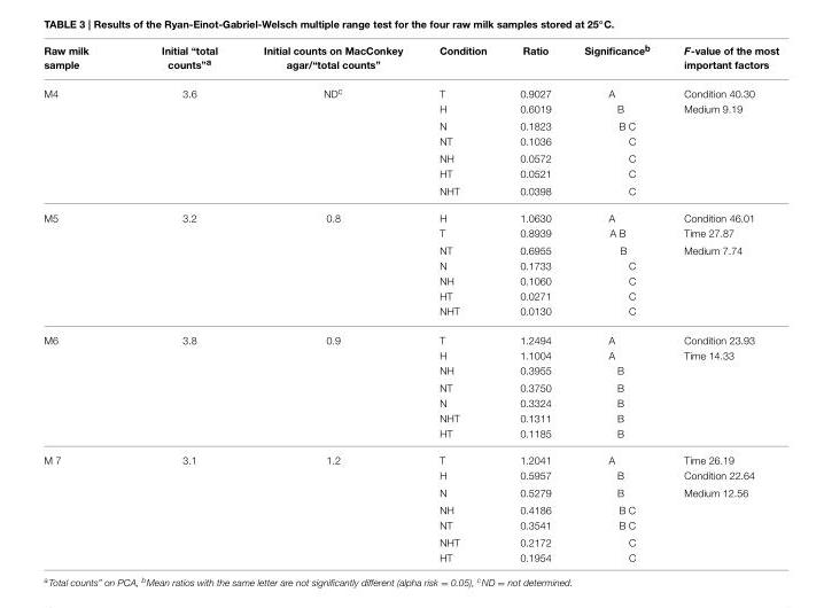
<table><thead><tr><td>Raw milk sample</td><td>Initial “total counts”<sup>a</sup></td><td>Initial counts on MacConkey agar/“total counts”</td><td>Condition</td><td>Ratio</td><td>Significance<sup>b</sup></td><td>F-value of the most important factors</td></tr></thead><tbody><tr><td rowspan="7">M4</td><td>3.6</td><td>ND<sup>c</sup></td><td>T</td><td>0.9027</td><td>A</td><td>Condition 40.30</td></tr><tr><td></td><td></td><td>H</td><td>0.6019</td><td>B</td><td>Medium 9.19</td></tr><tr><td></td><td></td><td>N</td><td>0.1823</td><td>B C</td><td></td></tr><tr><td></td><td></td><td>NT</td><td>0.1036</td><td>C</td><td></td></tr><tr><td></td><td></td><td>NH</td><td>0.0572</td><td>C</td><td></td></tr><tr><td></td><td></td><td>HT</td><td>0.0521</td><td>C</td><td></td></tr><tr><td></td><td></td><td>NHT</td><td>0.0398</td><td>C</td><td></td></tr><tr><td rowspan="7">M5</td><td>3.2</td><td>0.8</td><td>H</td><td>1.0630</td><td>A</td><td>Condition 46.01</td></tr><tr><td></td><td></td><td>T</td><td>0.8939</td><td>A B</td><td>Time 27.87</td></tr><tr><td></td><td></td><td>NT</td><td>0.6955</td><td>B</td><td>Medium 7.74</td></tr><tr><td></td><td></td><td>N</td><td>0.1733</td><td>C</td><td></td></tr><tr><td></td><td></td><td>NH</td><td>0.1060</td><td>C</td><td></td></tr><tr><td></td><td></td><td>HT</td><td>0.0271</td><td>C</td><td></td></tr><tr><td></td><td></td><td>NHT</td><td>0.0130</td><td>C</td><td></td></tr><tr><td rowspan="7">M6</td><td>3.8</td><td>0.9</td><td>T</td><td>1.2494</td><td>A</td><td>Condition 23.93</td></tr><tr><td></td><td></td><td>H</td><td>1.1004</td><td>A</td><td>Time 14.33</td></tr><tr><td></td><td></td><td>NH</td><td>0.3955</td><td>B</td><td></td></tr><tr><td></td><td></td><td>NT</td><td>0.3750</td><td>B</td><td></td></tr><tr><td></td><td></td><td>N</td><td>0.3324</td><td>B</td><td></td></tr><tr><td></td><td></td><td>NHT</td><td>0.1311</td><td>B</td><td></td></tr><tr><td></td><td></td><td>HT</td><td>0.1185</td><td>B</td><td></td></tr><tr><td rowspan="7">M 7</td><td>3.1</td><td>1.2</td><td>T</td><td>1.2041</td><td>A</td><td>Time 26.19</td></tr><tr><td></td><td></td><td>H</td><td>0.5957</td><td>B</td><td>Condition 22.64</td></tr><tr><td></td><td></td><td>N</td><td>0.5279</td><td>B</td><td>Medium 12.56</td></tr><tr><td></td><td></td><td>NH</td><td>0.4186</td><td>B C</td><td></td></tr><tr><td></td><td></td><td>NT</td><td>0.3541</td><td>B C</td><td></td></tr><tr><td></td><td></td><td>NHT</td><td>0.2172</td><td>C</td><td></td></tr><tr><td></td><td></td><td>HT</td><td>0.1954</td><td>C</td><td></td></tr></tbody></table>